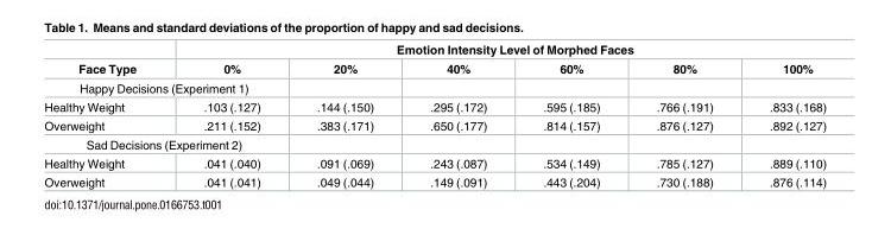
<table><thead><tr><td rowspan="2">Face Type</td><td colspan="6">Emotion Intensity Level of Morphed Faces</td></tr><tr><td>0%</td><td>20%</td><td>40%</td><td>60%</td><td>80%</td><td>100%</td></tr></thead><tbody><tr><td colspan="7">Happy Decisions (Experiment 1)</td></tr><tr><td>Healthy Weight</td><td>.103 (.127)</td><td>.144 (.150)</td><td>.295 (.172)</td><td>.595 (.185)</td><td>.766 (.191)</td><td>.833 (.168)</td></tr><tr><td>Overweight</td><td>.211 (.152)</td><td>.383 (.171)</td><td>.650 (.177)</td><td>.814 (.157)</td><td>.876 (.127)</td><td>.892 (.127)</td></tr><tr><td colspan="7">Sad Decisions (Experiment 2)</td></tr><tr><td>Healthy Weight</td><td>.041 (.040)</td><td>.091 (.069)</td><td>.243 (.087)</td><td>.534 (.149)</td><td>.785 (.127)</td><td>.889 (.110)</td></tr><tr><td>Overweight</td><td>.041 (.041)</td><td>.049 (.044)</td><td>.149 (.091)</td><td>.443 (.204)</td><td>.730 (.188)</td><td>.876 (.114)</td></tr></tbody></table>